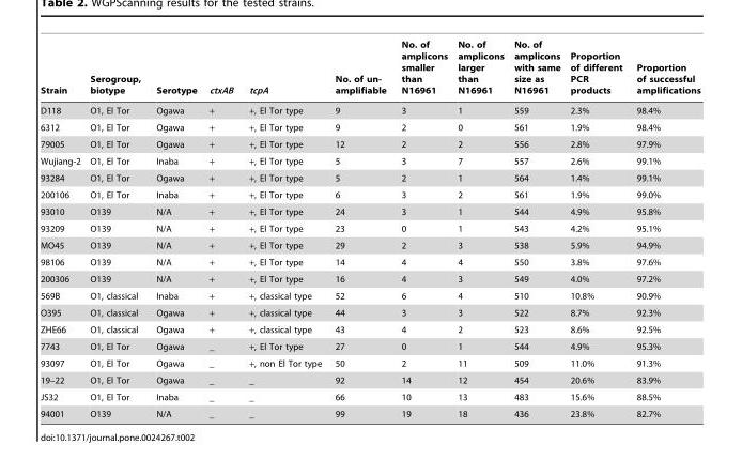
<table><thead><tr><td>Strain</td><td>Serogroup, biotype</td><td>Serotype</td><td>ctxAB</td><td>tcpA</td><td>No. of un- amplifiable</td><td>No. of amplicons smaller than N16961</td><td>No. of amplicons larger than N16961</td><td>No. of amplicons with same size as N16961</td><td>Proportion of different PCR products</td><td>Proportion of successful amplifications</td></tr></thead><tbody><tr><td>D118</td><td>O1, El Tor</td><td>Ogawa</td><td>+</td><td>+, El Tor type</td><td>9</td><td>3</td><td>1</td><td>559</td><td>2.3%</td><td>98.4%</td></tr><tr><td>6312</td><td>O1, El Tor</td><td>Ogawa</td><td>+</td><td>+, El Tor type</td><td>9</td><td>2</td><td>0</td><td>561</td><td>1.9%</td><td>98.4%</td></tr><tr><td>79005</td><td>O1, El Tor</td><td>Ogawa</td><td>+</td><td>+, El Tor type</td><td>12</td><td>2</td><td>2</td><td>556</td><td>2.8%</td><td>97.9%</td></tr><tr><td>Wujiang-2</td><td>O1, El Tor</td><td>Inaba</td><td>+</td><td>+, El Tor type</td><td>5</td><td>3</td><td>7</td><td>557</td><td>2.6%</td><td>99.1%</td></tr><tr><td>93284</td><td>O1, El Tor</td><td>Ogawa</td><td>+</td><td>+, El Tor type</td><td>5</td><td>2</td><td>1</td><td>564</td><td>1.4%</td><td>99.1%</td></tr><tr><td>200106</td><td>O1, El Tor</td><td>Inaba</td><td>+</td><td>+, El Tor type</td><td>6</td><td>3</td><td>2</td><td>561</td><td>1.9%</td><td>99.0%</td></tr><tr><td>93010</td><td>O139</td><td>N/A</td><td>+</td><td>+, El Tor type</td><td>24</td><td>3</td><td>1</td><td>544</td><td>4.9%</td><td>95.8%</td></tr><tr><td>93209</td><td>O139</td><td>N/A</td><td>+</td><td>+, El Tor type</td><td>23</td><td>0</td><td>1</td><td>543</td><td>4.2%</td><td>95.1%</td></tr><tr><td>MO45</td><td>O139</td><td>N/A</td><td>+</td><td>+, El Tor type</td><td>29</td><td>2</td><td>3</td><td>538</td><td>5.9%</td><td>94.9%</td></tr><tr><td>98106</td><td>O139</td><td>N/A</td><td>+</td><td>+, El Tor type</td><td>14</td><td>4</td><td>4</td><td>550</td><td>3.8%</td><td>97.6%</td></tr><tr><td>200306</td><td>O139</td><td>N/A</td><td>+</td><td>+, El Tor type</td><td>16</td><td>4</td><td>3</td><td>549</td><td>4.0%</td><td>97.2%</td></tr><tr><td>569B</td><td>O1, classical</td><td>Inaba</td><td>+</td><td>+, classical type</td><td>52</td><td>6</td><td>4</td><td>510</td><td>10.8%</td><td>90.9%</td></tr><tr><td>O395</td><td>O1, classical</td><td>Ogawa</td><td>+</td><td>+, classical type</td><td>44</td><td>3</td><td>3</td><td>522</td><td>8.7%</td><td>92.3%</td></tr><tr><td>ZHE66</td><td>O1, classical</td><td>Ogawa</td><td>+</td><td>+, classical type</td><td>43</td><td>4</td><td>2</td><td>523</td><td>8.6%</td><td>92.5%</td></tr><tr><td>7743</td><td>O1, El Tor</td><td>Ogawa</td><td>_</td><td>+, El Tor type</td><td>27</td><td>0</td><td>1</td><td>544</td><td>4.9%</td><td>95.3%</td></tr><tr><td>93097</td><td>O1, El Tor</td><td>Ogawa</td><td>_</td><td>+, non El Tor type</td><td>50</td><td>2</td><td>11</td><td>509</td><td>11.0%</td><td>91.3%</td></tr><tr><td>19–22</td><td>O1, El Tor</td><td>Ogawa</td><td>_</td><td>_</td><td>92</td><td>14</td><td>12</td><td>454</td><td>20.6%</td><td>83.9%</td></tr><tr><td>JS32</td><td>O1, El Tor</td><td>Inaba</td><td>_</td><td>_</td><td>66</td><td>10</td><td>13</td><td>483</td><td>15.6%</td><td>88.5%</td></tr><tr><td>94001</td><td>O139</td><td>N/A</td><td>_</td><td>_</td><td>99</td><td>19</td><td>18</td><td>436</td><td>23.8%</td><td>82.7%</td></tr></tbody></table>